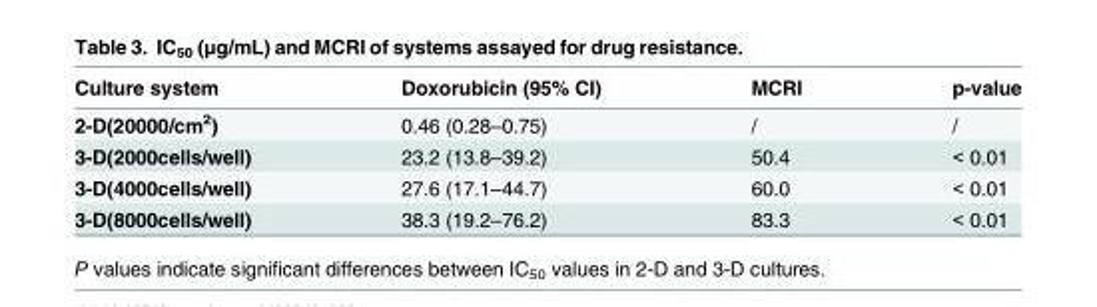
<table><thead><tr><td>Culture system</td><td>Doxorubicin (95% CI)</td><td>MCRI</td><td>p-value</td></tr></thead><tbody><tr><td>2-D(20000/cm<sup>2</sup>)</td><td>0.46 (0.28–0.75)</td><td>/</td><td>/</td></tr><tr><td>3-D(2000cells/well)</td><td>23.2 (13.8–39.2)</td><td>50.4</td><td>&lt; 0.01</td></tr><tr><td>3-D(4000cells/well)</td><td>27.6 (17.1–44.7)</td><td>60.0</td><td>&lt; 0.01</td></tr><tr><td>3-D(8000cells/well)</td><td>38.3 (19.2–76.2)</td><td>83.3</td><td>&lt; 0.01</td></tr></tbody></table>